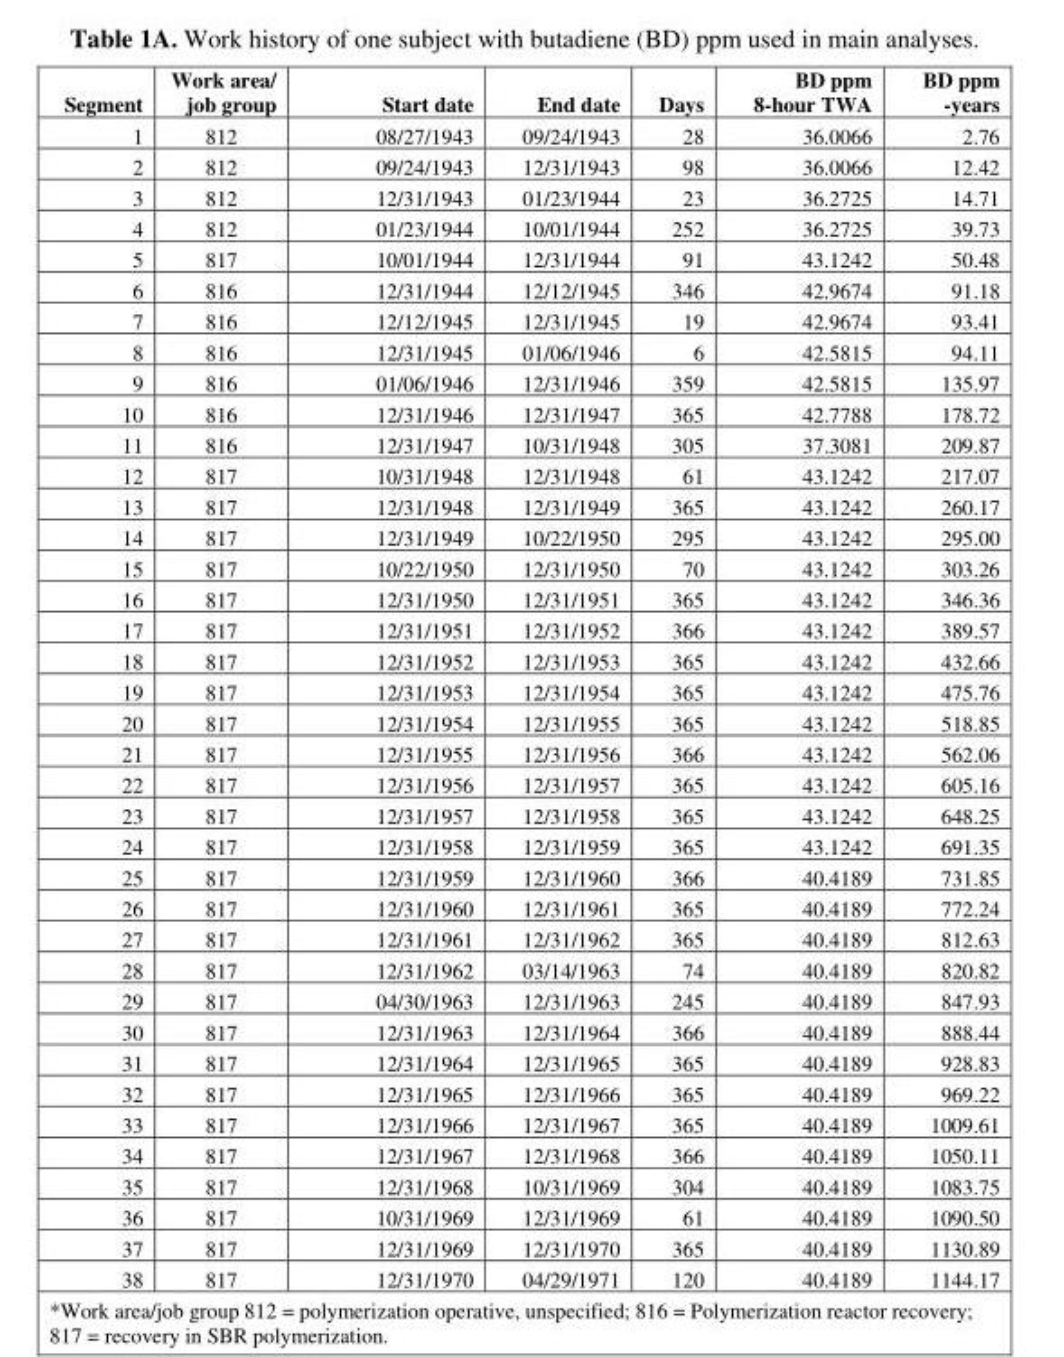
<table><thead><tr><td>Segment</td><td>Work area/ job group</td><td>Start date</td><td>End date</td><td>Days</td><td>BD ppm 8-hour TWA</td><td>BD ppm -years</td></tr></thead><tbody><tr><td>1</td><td>812</td><td>08/27/1943</td><td>09/24/1943</td><td>28</td><td>36.0066</td><td>2.76</td></tr><tr><td>2</td><td>812</td><td>09/24/1943</td><td>12/31/1943</td><td>98</td><td>36.0066</td><td>12.42</td></tr><tr><td>3</td><td>812</td><td>12/31/1943</td><td>01/23/1944</td><td>23</td><td>36.2725</td><td>14.71</td></tr><tr><td>4</td><td>812</td><td>01/23/1944</td><td>10/01/1944</td><td>252</td><td>36.2725</td><td>39.73</td></tr><tr><td>5</td><td>817</td><td>10/01/1944</td><td>12/31/1944</td><td>91</td><td>43.1242</td><td>50.48</td></tr><tr><td>6</td><td>816</td><td>12/31/1944</td><td>12/12/1945</td><td>346</td><td>42.9674</td><td>91.18</td></tr><tr><td>7</td><td>816</td><td>12/12/1945</td><td>12/31/1945</td><td>19</td><td>42.9674</td><td>93.41</td></tr><tr><td>8</td><td>816</td><td>12/31/1945</td><td>01/06/1946</td><td>6</td><td>42.5815</td><td>94.11</td></tr><tr><td>9</td><td>816</td><td>01/06/1946</td><td>12/31/1946</td><td>359</td><td>42.5815</td><td>135.97</td></tr><tr><td>10</td><td>816</td><td>12/31/1946</td><td>12/31/1947</td><td>365</td><td>42.7788</td><td>178.72</td></tr><tr><td>11</td><td>816</td><td>12/31/1947</td><td>10/31/1948</td><td>305</td><td>37.3081</td><td>209.87</td></tr><tr><td>12</td><td>817</td><td>10/31/1948</td><td>12/31/1948</td><td>61</td><td>43.1242</td><td>217.07</td></tr><tr><td>13</td><td>817</td><td>12/31/1948</td><td>12/31/1949</td><td>365</td><td>43.1242</td><td>260.17</td></tr><tr><td>14</td><td>817</td><td>12/31/1949</td><td>10/22/1950</td><td>295</td><td>43.1242</td><td>295.00</td></tr><tr><td>15</td><td>817</td><td>10/22/1950</td><td>12/31/1950</td><td>70</td><td>43.1242</td><td>303.26</td></tr><tr><td>16</td><td>817</td><td>12/31/1950</td><td>12/31/1951</td><td>365</td><td>43.1242</td><td>346.36</td></tr><tr><td>17</td><td>817</td><td>12/31/1951</td><td>12/31/1952</td><td>366</td><td>43.1242</td><td>389.57</td></tr><tr><td>18</td><td>817</td><td>12/31/1952</td><td>12/31/1953</td><td>365</td><td>43.1242</td><td>432.66</td></tr><tr><td>19</td><td>817</td><td>12/31/1953</td><td>12/31/1954</td><td>365</td><td>43.1242</td><td>475.76</td></tr><tr><td>20</td><td>817</td><td>12/31/1954</td><td>12/31/1955</td><td>365</td><td>43.1242</td><td>518.85</td></tr><tr><td>21</td><td>817</td><td>12/31/1955</td><td>12/31/1956</td><td>366</td><td>43.1242</td><td>562.06</td></tr><tr><td>22</td><td>817</td><td>12/31/1956</td><td>12/31/1957</td><td>365</td><td>43.1242</td><td>605.16</td></tr><tr><td>23</td><td>817</td><td>12/31/1957</td><td>12/31/1958</td><td>365</td><td>43.1242</td><td>648.25</td></tr><tr><td>24</td><td>817</td><td>12/31/1958</td><td>12/31/1959</td><td>365</td><td>43.1242</td><td>691.35</td></tr><tr><td>25</td><td>817</td><td>12/31/1959</td><td>12/31/1960</td><td>366</td><td>40.4189</td><td>731.85</td></tr><tr><td>26</td><td>817</td><td>12/31/1960</td><td>12/31/1961</td><td>365</td><td>40.4189</td><td>772.24</td></tr><tr><td>27</td><td>817</td><td>12/31/1961</td><td>12/31/1962</td><td>365</td><td>40.4189</td><td>812.63</td></tr><tr><td>28</td><td>817</td><td>12/31/1962</td><td>03/14/1963</td><td>74</td><td>40.4189</td><td>820.82</td></tr><tr><td>29</td><td>817</td><td>04/30/1963</td><td>12/31/1963</td><td>245</td><td>40.4189</td><td>847.93</td></tr><tr><td>30</td><td>817</td><td>12/31/1963</td><td>12/31/1964</td><td>366</td><td>40.4189</td><td>888.44</td></tr><tr><td>31</td><td>817</td><td>12/31/1964</td><td>12/31/1965</td><td>365</td><td>40.4189</td><td>928.83</td></tr><tr><td>32</td><td>817</td><td>12/31/1965</td><td>12/31/1966</td><td>365</td><td>40.4189</td><td>969.22</td></tr><tr><td>33</td><td>817</td><td>12/31/1966</td><td>12/31/1967</td><td>365</td><td>40.4189</td><td>1009.61</td></tr><tr><td>34</td><td>817</td><td>12/31/1967</td><td>12/31/1968</td><td>366</td><td>40.4189</td><td>1050.11</td></tr><tr><td>35</td><td>817</td><td>12/31/1968</td><td>10/31/1969</td><td>304</td><td>40.4189</td><td>1083.75</td></tr><tr><td>36</td><td>817</td><td>10/31/1969</td><td>12/31/1969</td><td>61</td><td>40.4189</td><td>1090.50</td></tr><tr><td>37</td><td>817</td><td>12/31/1969</td><td>12/31/1970</td><td>365</td><td>40.4189</td><td>1130.89</td></tr><tr><td>38</td><td>817</td><td>12/31/1970</td><td>04/29/1971</td><td>120</td><td>40.4189</td><td>1144.17</td></tr></tbody></table>